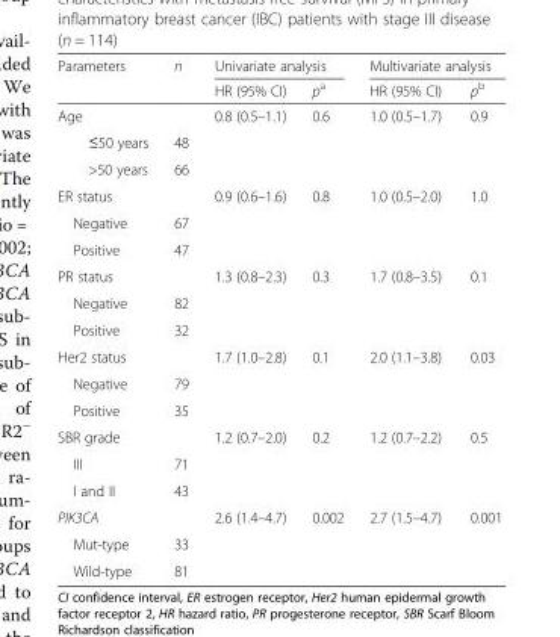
<table><thead><tr><td rowspan="2">Parameters</td><td rowspan="2">n</td><td colspan="2">Univariate analysis</td><td colspan="2">Multivariate analysis</td></tr><tr><td>HR (95% CI)</td><td>p<sup>a</sup></td><td>HR (95% CI)</td><td>p<sup>b</sup></td></tr></thead><tbody><tr><td>Age</td><td></td><td>0.8 (0.5–1.1)</td><td>0.6</td><td>1.0 (0.5–1.7)</td><td>0.9</td></tr><tr><td>≤50 years</td><td>48</td><td></td><td></td><td></td><td></td></tr><tr><td>&gt;50 years</td><td>66</td><td></td><td></td><td></td><td></td></tr><tr><td>ER status</td><td></td><td>0.9 (0.6–1.6)</td><td>0.8</td><td>1.0 (0.5–2.0)</td><td>1.0</td></tr><tr><td>Negative</td><td>67</td><td></td><td></td><td></td><td></td></tr><tr><td>Positive</td><td>47</td><td></td><td></td><td></td><td></td></tr><tr><td>PR status</td><td></td><td>1.3 (0.8–2.3)</td><td>0.3</td><td>1.7 (0.8–3.5)</td><td>0.1</td></tr><tr><td>Negative</td><td>82</td><td></td><td></td><td></td><td></td></tr><tr><td>Positive</td><td>32</td><td></td><td></td><td></td><td></td></tr><tr><td>Her2 status</td><td></td><td>1.7 (1.0–2.8)</td><td>0.1</td><td>2.0 (1.1–3.8)</td><td>0.03</td></tr><tr><td>Negative</td><td>79</td><td></td><td></td><td></td><td></td></tr><tr><td>Positive</td><td>35</td><td></td><td></td><td></td><td></td></tr><tr><td>SBR grade</td><td></td><td>1.2 (0.7–2.0)</td><td>0.2</td><td>1.2 (0.7–2.2)</td><td>0.5</td></tr><tr><td>III</td><td>71</td><td></td><td></td><td></td><td></td></tr><tr><td>I and II</td><td>43</td><td></td><td></td><td></td><td></td></tr><tr><td>PIK3CA</td><td></td><td>2.6 (1.4–4.7)</td><td>0.002</td><td>2.7 (1.5–4.7)</td><td>0.001</td></tr><tr><td>Mut-type</td><td>33</td><td></td><td></td><td></td><td></td></tr><tr><td>Wild-type</td><td>81</td><td></td><td></td><td></td><td></td></tr></tbody></table>